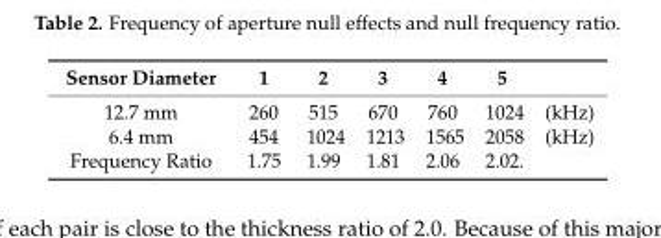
<table><thead><tr><td>Sensor Diameter</td><td>1</td><td>2</td><td>3</td><td>4</td><td>5</td><td></td></tr></thead><tbody><tr><td>12.7 mm</td><td>260</td><td>515</td><td>670</td><td>760</td><td>1024</td><td>(kHz)</td></tr><tr><td>6.4 mm</td><td>454</td><td>1024</td><td>1213</td><td>1565</td><td>2058</td><td>(kHz)</td></tr><tr><td>Frequency Ratio</td><td>1.75</td><td>1.99</td><td>1.81</td><td>2.06</td><td>2.02.</td><td></td></tr></tbody></table>